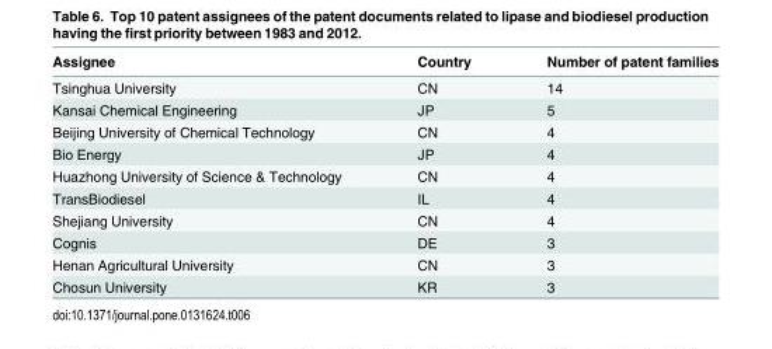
<table><thead><tr><td>Assignee</td><td>Country</td><td>Number of patent families</td></tr></thead><tbody><tr><td>Tsinghua University</td><td>CN</td><td>14</td></tr><tr><td>Kansai Chemical Engineering</td><td>JP</td><td>5</td></tr><tr><td>Beijing University of Chemical Technology</td><td>CN</td><td>4</td></tr><tr><td>Bio Energy</td><td>JP</td><td>4</td></tr><tr><td>Huazhong University of Science &amp; Technology</td><td>CN</td><td>4</td></tr><tr><td>TransBiodiesel</td><td>IL</td><td>4</td></tr><tr><td>Shejiang University</td><td>CN</td><td>4</td></tr><tr><td>Cognis</td><td>DE</td><td>3</td></tr><tr><td>Henan Agricultural University</td><td>CN</td><td>3</td></tr><tr><td>Chosun University</td><td>KR</td><td>3</td></tr></tbody></table>